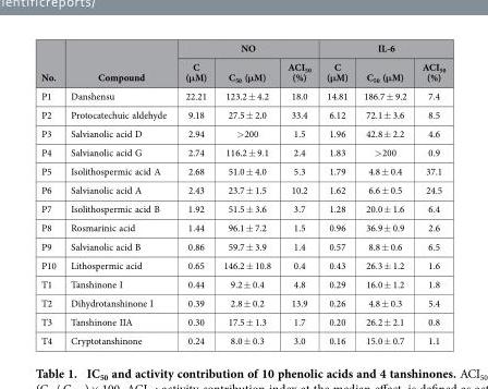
<table><thead><tr><td rowspan="2">No.</td><td rowspan="2">Compound</td><td colspan="3">NO</td><td colspan="3">IL-6</td></tr><tr><td>C (μM)</td><td>C<sub>50</sub> (μM)</td><td>ACI<sub>50</sub> (%)</td><td>C (μM)</td><td>C<sub>50</sub> (μM)</td><td>ACI<sub>50</sub> (%)</td></tr></thead><tbody><tr><td>P1</td><td>Danshensu</td><td>22.21</td><td>123.2 ± 4.2</td><td>18.0</td><td>14.81</td><td>186.7 ± 9.2</td><td>7.4</td></tr><tr><td>P2</td><td>Protocatechuic aldehyde</td><td>9.18</td><td>27.5 ± 2.0</td><td>33.4</td><td>6.12</td><td>72.1 ± 3.6</td><td>8.5</td></tr><tr><td>P3</td><td>Salvianolic acid D</td><td>2.94</td><td>&gt; 200</td><td>1.5</td><td>1.96</td><td>42.8 ± 2.2</td><td>4.6</td></tr><tr><td>P4</td><td>Salvianolic acid G</td><td>2.74</td><td>116.2 ± 9.1</td><td>2.4</td><td>1.83</td><td>&gt; 200</td><td>0.9</td></tr><tr><td>P5</td><td>Isolithospermic acid A</td><td>2.68</td><td>51.0 ± 4.0</td><td>5.3</td><td>1.79</td><td>4.8 ± 0.4</td><td>37.1</td></tr><tr><td>P6</td><td>Salvianolic acid A</td><td>2.43</td><td>23.7 ± 1.5</td><td>10.2</td><td>1.62</td><td>6.6 ± 0.5</td><td>24.5</td></tr><tr><td>P7</td><td>Isolithospermic acid B</td><td>1.92</td><td>51.5 ± 3.6</td><td>3.7</td><td>1.28</td><td>20.0 ± 1.6</td><td>6.4</td></tr><tr><td>P8</td><td>Rosmarinic acid</td><td>1.44</td><td>96.1 ± 7.2</td><td>1.5</td><td>0.96</td><td>36.9 ± 0.9</td><td>2.6</td></tr><tr><td>P9</td><td>Salvianolic acid B</td><td>0.86</td><td>59.7 ± 3.9</td><td>1.4</td><td>0.57</td><td>8.8 ± 0.6</td><td>6.5</td></tr><tr><td>P10</td><td>Lithospermic acid</td><td>0.65</td><td>146.2 ± 10.8</td><td>0.4</td><td>0.43</td><td>26.3 ± 1.2</td><td>1.6</td></tr><tr><td>T1</td><td>Tanshinone I</td><td>0.44</td><td>9.2 ± 0.4</td><td>4.8</td><td>0.29</td><td>16.0 ± 1.2</td><td>1.8</td></tr><tr><td>T2</td><td>Dihydrotanshinone I</td><td>0.39</td><td>2.8 ± 0.2</td><td>13.9</td><td>0.26</td><td>4.8 ± 0.3</td><td>5.4</td></tr><tr><td>T3</td><td>Tanshinone IIA</td><td>0.30</td><td>17.5 ± 1.3</td><td>1.7</td><td>0.20</td><td>26.2 ± 2.1</td><td>0.8</td></tr><tr><td>T4</td><td>Cryptotanshinone</td><td>0.24</td><td>8.0 ± 0.3</td><td>3.0</td><td>0.16</td><td>15.0 ± 0.7</td><td>1.1</td></tr></tbody></table>